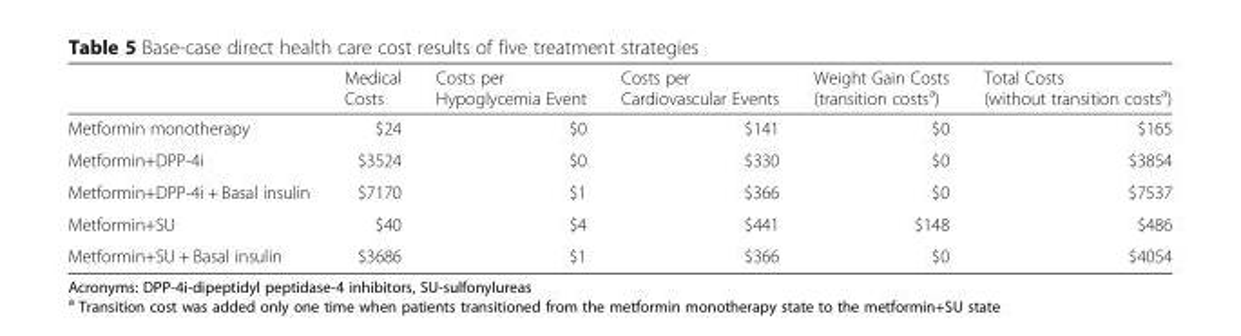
<table><thead><tr><td></td><td>Medical Costs</td><td>Costs per Hypoglycemia Event</td><td>Costs per Cardiovascular Events</td><td>Weight Gain Costs (transition costs<sup>a</sup>)</td><td>Total Costs (without transition costs<sup>a</sup>)</td></tr></thead><tbody><tr><td>Metformin monotherapy</td><td>$24</td><td>$0</td><td>$141</td><td>$0</td><td>$165</td></tr><tr><td>Metformin+DPP-4i</td><td>$3524</td><td>$0</td><td>$330</td><td>$0</td><td>$3854</td></tr><tr><td>Metformin+DPP-4i + Basal insulin</td><td>$7170</td><td>$1</td><td>$366</td><td>$0</td><td>$7537</td></tr><tr><td>Metformin+SU</td><td>$40</td><td>$4</td><td>$441</td><td>$148</td><td>$486</td></tr><tr><td>Metformin+SU + Basal insulin</td><td>$3686</td><td>$1</td><td>$366</td><td>$0</td><td>$4054</td></tr></tbody></table>